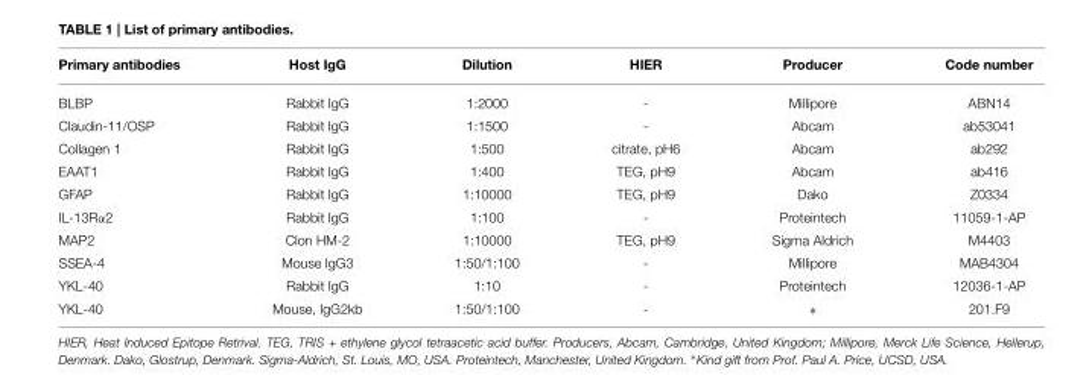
<table><thead><tr><td>Primary antibodies</td><td>Host IgG</td><td>Dilution</td><td>HIER</td><td>Producer</td><td>Code number</td></tr></thead><tbody><tr><td>BLBP</td><td>Rabbit IgG</td><td>1:2000</td><td>-</td><td>Millipore</td><td>ABN14</td></tr><tr><td>Claudin-11/OSP</td><td>Rabbit IgG</td><td>1:1500</td><td>-</td><td>Abcam</td><td>ab53041</td></tr><tr><td>Collagen 1</td><td>Rabbit IgG</td><td>1:500</td><td>citrate, pH6</td><td>Abcam</td><td>ab292</td></tr><tr><td>EAAT1</td><td>Rabbit IgG</td><td>1:400</td><td>TEG, pH9</td><td>Abcam</td><td>ab416</td></tr><tr><td>GFAP</td><td>Rabbit IgG</td><td>1:10000</td><td>TEG, pH9</td><td>Dako</td><td>Z0334</td></tr><tr><td>IL-13Rα2</td><td>Rabbit IgG</td><td>1:100</td><td>-</td><td>Proteintech</td><td>11059-1-AP</td></tr><tr><td>MAP2</td><td>Clon HM-2</td><td>1:10000</td><td>TEG, pH9</td><td>Sigma Aldrich</td><td>M4403</td></tr><tr><td>SSEA-4</td><td>Mouse IgG3</td><td>1:50/1:100</td><td>-</td><td>Millipore</td><td>MAB4304</td></tr><tr><td>YKL-40</td><td>Rabbit IgG</td><td>1:10</td><td>-</td><td>Proteintech</td><td>12036-1-AP</td></tr><tr><td>YKL-40</td><td>Mouse, IgG2kb</td><td>1:50/1:100</td><td>-</td><td>∗</td><td>201.F9</td></tr></tbody></table>